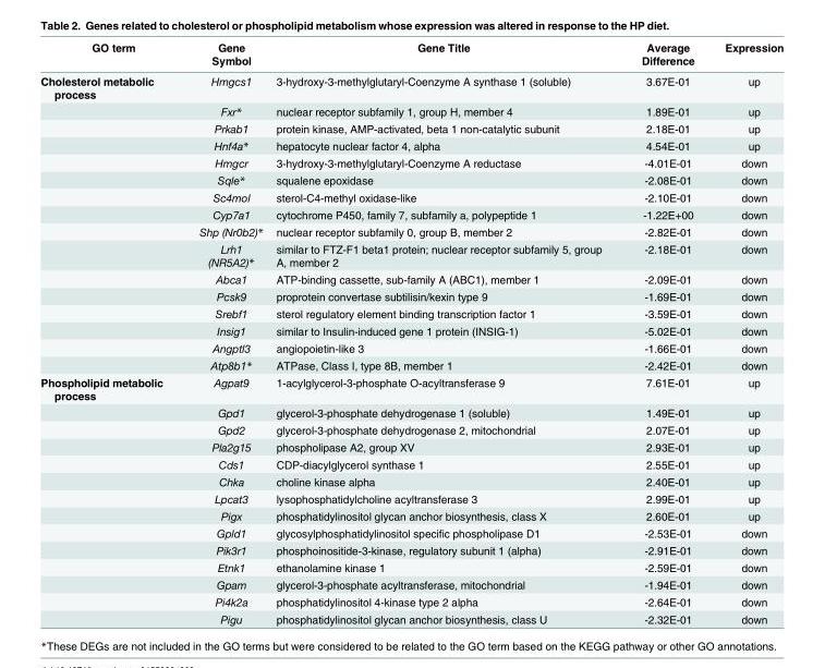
<table><thead><tr><td>GO term</td><td>Gene Symbol</td><td>Gene Title</td><td>Average Difference</td><td>Expression</td></tr></thead><tbody><tr><td rowspan="16">Cholesterol metabolic process</td><td>Hmgcs1</td><td>3-hydroxy-3-methylglutaryl-Coenzyme A synthase 1 (soluble)</td><td>3.67E-01</td><td>up</td></tr><tr><td>Fxr*</td><td>nuclear receptor subfamily 1, group H, member 4</td><td>1.89E-01</td><td>up</td></tr><tr><td>Prkab1</td><td>protein kinase, AMP-activated, beta 1 non-catalytic subunit</td><td>2.18E-01</td><td>up</td></tr><tr><td>Hnf4a*</td><td>hepatocyte nuclear factor 4, alpha</td><td>4.54E-01</td><td>up</td></tr><tr><td>Hmgcr</td><td>3-hydroxy-3-methylglutaryl-Coenzyme A reductase</td><td>-4.01E-01</td><td>down</td></tr><tr><td>Sqle*</td><td>squalene epoxidase</td><td>-2.08E-01</td><td>down</td></tr><tr><td>Sc4mol</td><td>sterol-C4-methyl oxidase-like</td><td>-2.10E-01</td><td>down</td></tr><tr><td>Cyp7a1</td><td>cytochrome P450, family 7, subfamily a, polypeptide 1</td><td>-1.22E+00</td><td>down</td></tr><tr><td>Shp (Nr0b2)*</td><td>nuclear receptor subfamily 0, group B, member 2</td><td>-2.82E-01</td><td>down</td></tr><tr><td>Lrh1 (NR5A2)*</td><td>similar to FTZ-F1 beta1 protein; nuclear receptor subfamily 5, group A, member 2</td><td>-2.18E-01</td><td>down</td></tr><tr><td>Abca1</td><td>ATP-binding cassette, sub-family A (ABC1), member 1</td><td>-2.09E-01</td><td>down</td></tr><tr><td>Pcsk9</td><td>proprotein convertase subtilisin/kexin type 9</td><td>-1.69E-01</td><td>down</td></tr><tr><td>Srebf1</td><td>sterol regulatory element binding transcription factor 1</td><td>-3.59E-01</td><td>down</td></tr><tr><td>Insig1</td><td>similar to Insulin-induced gene 1 protein (INSIG-1)</td><td>-5.02E-01</td><td>down</td></tr><tr><td>Angptl3</td><td>angiopoietin-like 3</td><td>-1.66E-01</td><td>down</td></tr><tr><td>Atp8b1*</td><td>ATPase, Class I, type 8B, member 1</td><td>-2.42E-01</td><td>down</td></tr><tr><td rowspan="14">Phospholipid metabolic process</td><td>Agpat9</td><td>1-acylglycerol-3-phosphate O-acyltransferase 9</td><td>7.61E-01</td><td>up</td></tr><tr><td>Gpd1</td><td>glycerol-3-phosphate dehydrogenase 1 (soluble)</td><td>1.49E-01</td><td>up</td></tr><tr><td>Gpd2</td><td>glycerol-3-phosphate dehydrogenase 2, mitochondrial</td><td>2.07E-01</td><td>up</td></tr><tr><td>Pla2g15</td><td>phospholipase A2, group XV</td><td>2.93E-01</td><td>up</td></tr><tr><td>Cds1</td><td>CDP-diacylglycerol synthase 1</td><td>2.55E-01</td><td>up</td></tr><tr><td>Chka</td><td>choline kinase alpha</td><td>2.40E-01</td><td>up</td></tr><tr><td>Lpcat3</td><td>lysophosphatidylcholine acyltransferase 3</td><td>2.99E-01</td><td>up</td></tr><tr><td>Pigx</td><td>phosphatidylinositol glycan anchor biosynthesis, class X</td><td>2.60E-01</td><td>up</td></tr><tr><td>Gpld1</td><td>glycosylphosphatidylinositol specific phospholipase D1</td><td>-2.53E-01</td><td>down</td></tr><tr><td>Pik3r1</td><td>phosphoinositide-3-kinase, regulatory subunit 1 (alpha)</td><td>-2.91E-01</td><td>down</td></tr><tr><td>Etnk1</td><td>ethanolamine kinase 1</td><td>-2.59E-01</td><td>down</td></tr><tr><td>Gpam</td><td>glycerol-3-phosphate acyltransferase, mitochondrial</td><td>-1.94E-01</td><td>down</td></tr><tr><td>Pi4k2a</td><td>phosphatidylinositol 4-kinase type 2 alpha</td><td>-2.64E-01</td><td>down</td></tr><tr><td>Pigu</td><td>phosphatidylinositol glycan anchor biosynthesis, class U</td><td>-2.32E-01</td><td>down</td></tr></tbody></table>